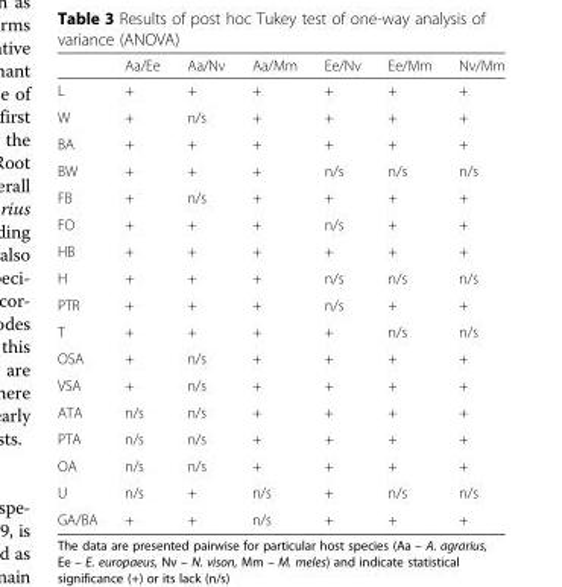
<table><thead><tr><td></td><td>Aa/Ee</td><td>Aa/Nv</td><td>Aa/Mm</td><td>Ee/Nv</td><td>Ee/Mm</td><td>Nv/Mm</td></tr></thead><tbody><tr><td>L</td><td>+</td><td>+</td><td>+</td><td>+</td><td>+</td><td>+</td></tr><tr><td>W</td><td>+</td><td>n/s</td><td>+</td><td>+</td><td>+</td><td>+</td></tr><tr><td>BA</td><td>+</td><td>+</td><td>+</td><td>+</td><td>+</td><td>+</td></tr><tr><td>BW</td><td>+</td><td>+</td><td>+</td><td>n/s</td><td>n/s</td><td>n/s</td></tr><tr><td>FB</td><td>+</td><td>n/s</td><td>+</td><td>+</td><td>+</td><td>+</td></tr><tr><td>FO</td><td>+</td><td>+</td><td>+</td><td>n/s</td><td>+</td><td>+</td></tr><tr><td>HB</td><td>+</td><td>+</td><td>+</td><td>+</td><td>+</td><td>+</td></tr><tr><td>H</td><td>+</td><td>+</td><td>+</td><td>n/s</td><td>n/s</td><td>n/s</td></tr><tr><td>PTR</td><td>+</td><td>+</td><td>+</td><td>n/s</td><td>+</td><td>+</td></tr><tr><td>T</td><td>+</td><td>+</td><td>+</td><td>+</td><td>n/s</td><td>n/s</td></tr><tr><td>OSA</td><td>+</td><td>n/s</td><td>+</td><td>+</td><td>+</td><td>+</td></tr><tr><td>VSA</td><td>+</td><td>n/s</td><td>+</td><td>+</td><td>+</td><td>+</td></tr><tr><td>ATA</td><td>n/s</td><td>n/s</td><td>+</td><td>+</td><td>+</td><td>+</td></tr><tr><td>PTA</td><td>n/s</td><td>n/s</td><td>+</td><td>+</td><td>+</td><td>+</td></tr><tr><td>OA</td><td>n/s</td><td>n/s</td><td>+</td><td>+</td><td>+</td><td>+</td></tr><tr><td>U</td><td>n/s</td><td>+</td><td>n/s</td><td>+</td><td>n/s</td><td>n/s</td></tr><tr><td>GA/BA</td><td>+</td><td>+</td><td>n/s</td><td>+</td><td>+</td><td>+</td></tr></tbody></table>